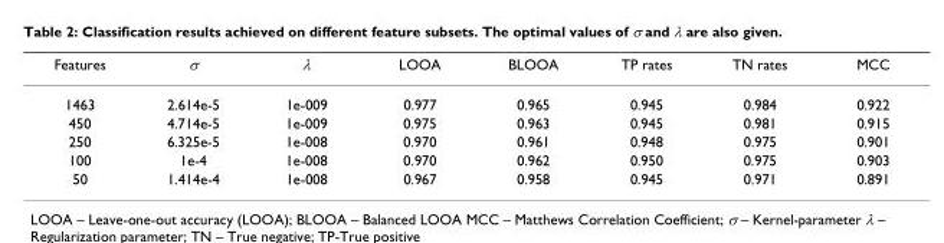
<table><thead><tr><td>Features</td><td>σ</td><td>λ</td><td>LOOA</td><td>BLOOA</td><td>TP rates</td><td>TN rates</td><td>MCC</td></tr></thead><tbody><tr><td>1463</td><td>2.614e-5</td><td>1e-009</td><td>0.977</td><td>0.965</td><td>0.945</td><td>0.984</td><td>0.922</td></tr><tr><td>450</td><td>4.714e-5</td><td>1e-009</td><td>0.975</td><td>0.963</td><td>0.945</td><td>0.981</td><td>0.915</td></tr><tr><td>250</td><td>6.325e-5</td><td>1e-008</td><td>0.970</td><td>0.961</td><td>0.948</td><td>0.975</td><td>0.901</td></tr><tr><td>100</td><td>1e-4</td><td>1e-008</td><td>0.970</td><td>0.962</td><td>0.950</td><td>0.975</td><td>0.903</td></tr><tr><td>50</td><td>1.414e-4</td><td>1e-008</td><td>0.967</td><td>0.958</td><td>0.945</td><td>0.971</td><td>0.891</td></tr></tbody></table>